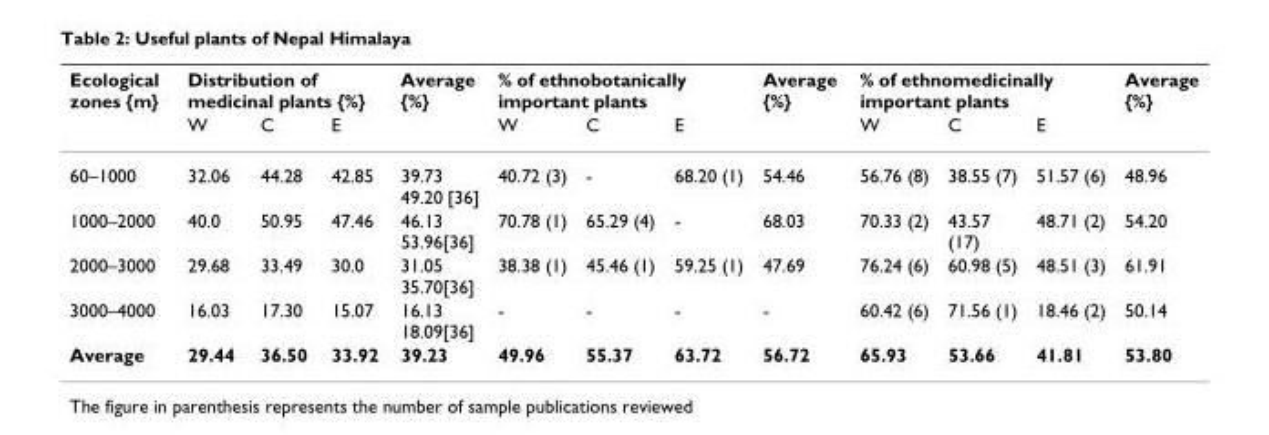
<table><thead><tr><td rowspan="2">Ecological zones {m}</td><td colspan="3">Distribution of medicinal plants {%}</td><td rowspan="2">Average {%}</td><td colspan="3">% of ethnobotanically important plants</td><td rowspan="2">Average {%}</td><td colspan="3">% of ethnomedicinally important plants</td><td rowspan="2">Average {%}</td></tr><tr><td>W</td><td>C</td><td>E</td><td>W</td><td>C</td><td>E</td><td>W</td><td>C</td><td>E</td></tr></thead><tbody><tr><td>60–1000</td><td>32.06</td><td>44.28</td><td>42.85</td><td>39.73 49.20 [36]</td><td>40.72 (3)</td><td>-</td><td>68.20 (1)</td><td>54.46</td><td>56.76 (8)</td><td>38.55 (7)</td><td>51.57 (6)</td><td>48.96</td></tr><tr><td>1000–2000</td><td>40.0</td><td>50.95</td><td>47.46</td><td>46.13 53.96[36]</td><td>70.78 (1)</td><td>65.29 (4)</td><td>-</td><td>68.03</td><td>70.33 (2)</td><td>43.57 (17)</td><td>48.71 (2)</td><td>54.20</td></tr><tr><td>2000–3000</td><td>29.68</td><td>33.49</td><td>30.0</td><td>31.05 35.70[36]</td><td>38.38 (1)</td><td>45.46 (1)</td><td>59.25 (1)</td><td>47.69</td><td>76.24 (6)</td><td>60.98 (5)</td><td>48.51 (3)</td><td>61.91</td></tr><tr><td>3000–4000</td><td>16.03</td><td>17.30</td><td>15.07</td><td>16.13 18.09[36]</td><td>-</td><td>-</td><td>-</td><td>-</td><td>60.42 (6)</td><td>71.56 (1)</td><td>18.46 (2)</td><td>50.14</td></tr><tr><td>Average</td><td>29.44</td><td>36.50</td><td>33.92</td><td>39.23</td><td>49.96</td><td>55.37</td><td>63.72</td><td>56.72</td><td>65.93</td><td>53.66</td><td>41.81</td><td>53.80</td></tr></tbody></table>